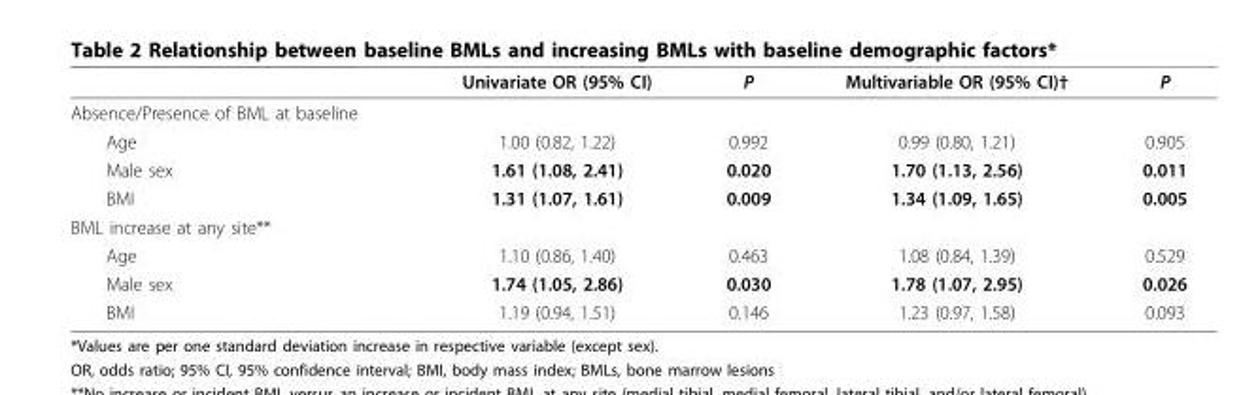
<table><thead><tr><td></td><td>Univariate OR (95% CI)</td><td>P</td><td>Multivariable OR (95% CI)†</td><td>P</td></tr></thead><tbody><tr><td colspan="5">Absence/Presence of BML at baseline</td></tr><tr><td>Age</td><td>1.00 (0.82, 1.22)</td><td>0.992</td><td>0.99 (0.80, 1.21)</td><td>0.905</td></tr><tr><td>Male sex</td><td>1.61 (1.08, 2.41)</td><td>0.020</td><td>1.70 (1.13, 2.56)</td><td>0.011</td></tr><tr><td>BMI</td><td>1.31 (1.07, 1.61)</td><td>0.009</td><td>1.34 (1.09, 1.65)</td><td>0.005</td></tr><tr><td colspan="5">BML increase at any site**</td></tr><tr><td>Age</td><td>1.10 (0.86, 1.40)</td><td>0.463</td><td>1.08 (0.84, 1.39)</td><td>0.529</td></tr><tr><td>Male sex</td><td>1.74 (1.05, 2.86)</td><td>0.030</td><td>1.78 (1.07, 2.95)</td><td>0.026</td></tr><tr><td>BMI</td><td>1.19 (0.94, 1.51)</td><td>0.146</td><td>1.23 (0.97, 1.58)</td><td>0.093</td></tr></tbody></table>